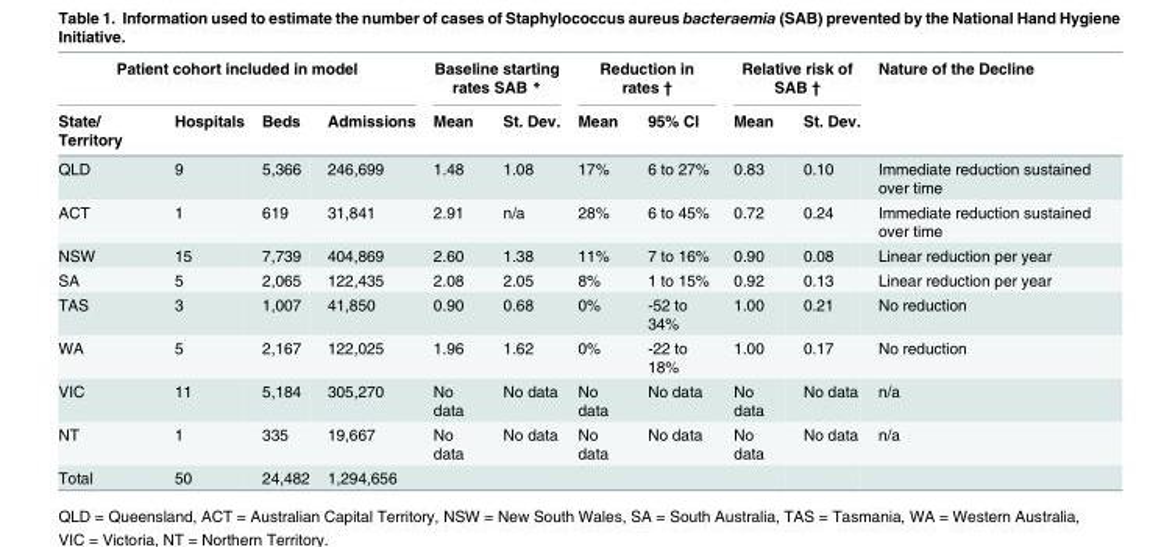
<table><thead><tr><td colspan="4">Patient cohort included in model</td><td colspan="2">Baseline starting rates SAB *</td><td colspan="2">Reduction in rates †</td><td colspan="2">Relative risk of SAB †</td><td rowspan="2">Nature of the Decline</td></tr><tr><td>State/ Territory</td><td>Hospitals</td><td>Beds</td><td>Admissions</td><td>Mean</td><td>St. Dev.</td><td>Mean</td><td>95% CI</td><td>Mean</td><td>St. Dev.</td></tr></thead><tbody><tr><td>QLD</td><td>9</td><td>5,366</td><td>246,699</td><td>1.48</td><td>1.08</td><td>17%</td><td>6 to 27%</td><td>0.83</td><td>0.10</td><td>Immediate reduction sustained over time</td></tr><tr><td>ACT</td><td>1</td><td>619</td><td>31,841</td><td>2.91</td><td>n/a</td><td>28%</td><td>6 to 45%</td><td>0.72</td><td>0.24</td><td>Immediate reduction sustained over time</td></tr><tr><td>NSW</td><td>15</td><td>7,739</td><td>404,869</td><td>2.60</td><td>1.38</td><td>11%</td><td>7 to 16%</td><td>0.90</td><td>0.08</td><td>Linear reduction per year</td></tr><tr><td>SA</td><td>5</td><td>2,065</td><td>122,435</td><td>2.08</td><td>2.05</td><td>8%</td><td>1 to 15%</td><td>0.92</td><td>0.13</td><td>Linear reduction per year</td></tr><tr><td>TAS</td><td>3</td><td>1,007</td><td>41,850</td><td>0.90</td><td>0.68</td><td>0%</td><td>-52 to 34%</td><td>1.00</td><td>0.21</td><td>No reduction</td></tr><tr><td>WA</td><td>5</td><td>2,167</td><td>122,025</td><td>1.96</td><td>1.62</td><td>0%</td><td>-22 to 18%</td><td>1.00</td><td>0.17</td><td>No reduction</td></tr><tr><td>VIC</td><td>11</td><td>5,184</td><td>305,270</td><td>No data</td><td>No data</td><td>No data</td><td>No data</td><td>No data</td><td>No data</td><td>n/a</td></tr><tr><td>NT</td><td>1</td><td>335</td><td>19,667</td><td>No data</td><td>No data</td><td>No data</td><td>No data</td><td>No data</td><td>No data</td><td>n/a</td></tr><tr><td>Total</td><td>50</td><td>24,482</td><td>1,294,656</td><td></td><td></td><td></td><td></td><td></td><td></td><td></td></tr></tbody></table>